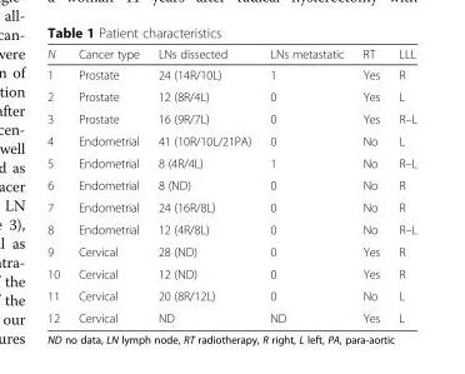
<table><thead><tr><td>N</td><td>Cancer type</td><td>LNs dissected</td><td>LNs metastatic</td><td>RT</td><td>LLL</td></tr></thead><tbody><tr><td>1</td><td>Prostate</td><td>24 (14R/10L)</td><td>1</td><td>Yes</td><td>R</td></tr><tr><td>2</td><td>Prostate</td><td>12 (8R/4L)</td><td>0</td><td>Yes</td><td>L</td></tr><tr><td>3</td><td>Prostate</td><td>16 (9R/7L)</td><td>0</td><td>Yes</td><td>R–L</td></tr><tr><td>4</td><td>Endometrial</td><td>41 (10R/10L/21PA)</td><td>0</td><td>No</td><td>L</td></tr><tr><td>5</td><td>Endometrial</td><td>8 (4R/4L)</td><td>1</td><td>No</td><td>R–L</td></tr><tr><td>6</td><td>Endometrial</td><td>8 (ND)</td><td>0</td><td>No</td><td>R</td></tr><tr><td>7</td><td>Endometrial</td><td>24 (16R/8L)</td><td>0</td><td>No</td><td>R</td></tr><tr><td>8</td><td>Endometrial</td><td>12 (4R/8L)</td><td>0</td><td>No</td><td>R–L</td></tr><tr><td>9</td><td>Cervical</td><td>28 (ND)</td><td>0</td><td>Yes</td><td>R</td></tr><tr><td>10</td><td>Cervical</td><td>12 (ND)</td><td>0</td><td>Yes</td><td>R</td></tr><tr><td>11</td><td>Cervical</td><td>20 (8R/12L)</td><td>0</td><td>No</td><td>L</td></tr><tr><td>12</td><td>Cervical</td><td>ND</td><td>ND</td><td>Yes</td><td>L</td></tr></tbody></table>